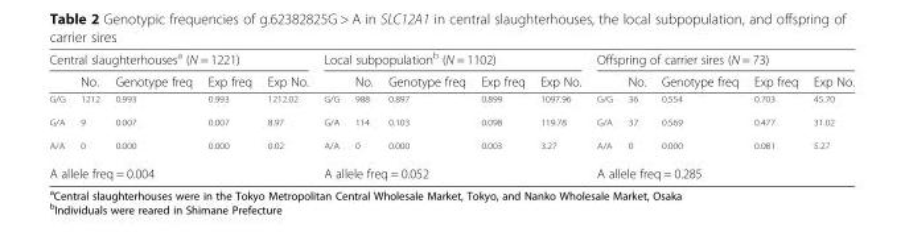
<table><thead><tr><td colspan="5">Central slaughterhouses<sup>a</sup> (N = 1221)</td><td colspan="5">Local subpopulation<sup>b</sup> (N = 1102)</td><td colspan="5">Offspring of carrier sires (N = 73)</td></tr><tr><td></td><td>No.</td><td>Genotype freq</td><td>Exp freq</td><td>Exp No.</td><td></td><td>No.</td><td>Genotype freq</td><td>Exp freq</td><td>Exp No.</td><td></td><td>No.</td><td>Genotype freq</td><td>Exp freq</td><td>Exp No.</td></tr></thead><tbody><tr><td><sup>G/G</sup></td><td><sup>1212</sup></td><td><sup>0.993</sup></td><td><sup>0.993</sup></td><td><sup>1212.02</sup></td><td><sup>G/G</sup></td><td><sup>988</sup></td><td><sup>0.897</sup></td><td><sup>0.899</sup></td><td><sup>1097.96</sup></td><td><sup>G/G</sup></td><td><sup>36</sup></td><td><sup>0.554</sup></td><td><sup>0.703</sup></td><td><sup>45.70</sup></td></tr><tr><td><sup>G/A</sup></td><td><sup>9</sup></td><td><sup>0.007</sup></td><td><sup>0.007</sup></td><td><sup>8.97</sup></td><td><sup>G/A</sup></td><td><sup>114</sup></td><td><sup>0.103</sup></td><td><sup>0.098</sup></td><td><sup>119.78</sup></td><td><sup>G/A</sup></td><td><sup>37</sup></td><td><sup>0.569</sup></td><td><sup>0.477</sup></td><td><sup>31.02</sup></td></tr><tr><td><sup>A/A</sup></td><td><sup>0</sup></td><td><sup>0.000</sup></td><td><sup>0.000</sup></td><td><sup>0.02</sup></td><td><sup>A/A</sup></td><td><sup>0</sup></td><td><sup>0.000</sup></td><td><sup>0.003</sup></td><td><sup>3.27</sup></td><td><sup>A/A</sup></td><td><sup>0</sup></td><td><sup>0.000</sup></td><td><sup>0.081</sup></td><td><sup>5.27</sup></td></tr><tr><td colspan="5">A allele freq = 0.004</td><td colspan="5">A allele freq = 0.052</td><td colspan="5">A allele freq = 0.285</td></tr></tbody></table>